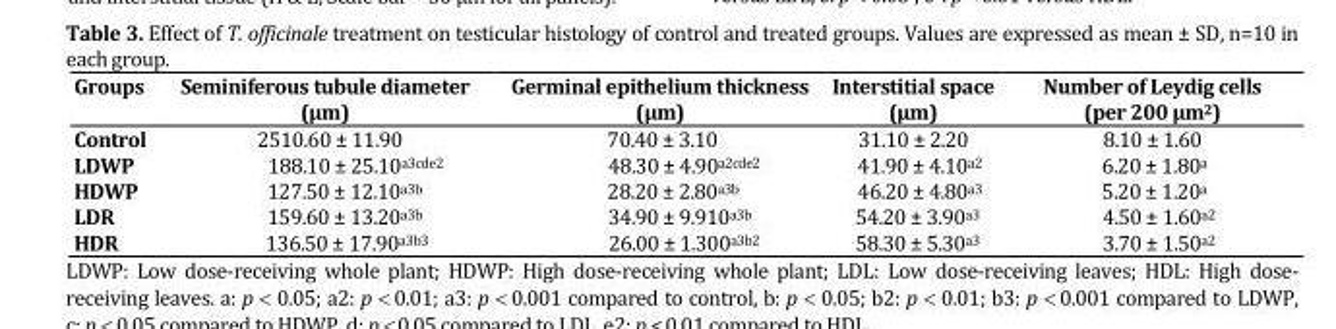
<table><thead><tr><td>Groups</td><td>Seminiferous tubule diameter (µm)</td><td>Germinal epithelium thickness (µm)</td><td>Interstitial space (µm)</td><td>Number of Leydig cells (per 200 µm<sup>2</sup>)</td></tr></thead><tbody><tr><td>Control</td><td>2510.60 ± 11.90</td><td>70.40 ± 3.10</td><td>31.10 ± 2.20</td><td>8.10 ± 1.60</td></tr><tr><td>LDWP</td><td>188.10 ± 25.10a3<sup>cd</sup>e2</td><td>48.30 ± 4.90a2<sup>cd</sup>e2</td><td>41.90 ± 4.10a2</td><td>6.20 ± 1.80<sup>a</sup></td></tr><tr><td>HDWP</td><td>127.50 ± 12.10a3<sup>b</sup></td><td>28.20 ± 2.80a3<sup>b</sup></td><td>46.20 ± 4.80a3</td><td>5.20 ± 1.20<sup>a</sup></td></tr><tr><td>LDR</td><td>159.60 ± 13.20a3<sup>b</sup></td><td>34.90 ± 9.910a3<sup>b</sup></td><td>54.20 ± 3.90a3</td><td>4.50 ± 1.60a2</td></tr><tr><td>HDR</td><td>136.50 ± 17.90a3b3</td><td>26.00 ± 1.300a3b2</td><td>58.30 ± 5.30a3</td><td>3.70 ± 1.50a2</td></tr></tbody></table>